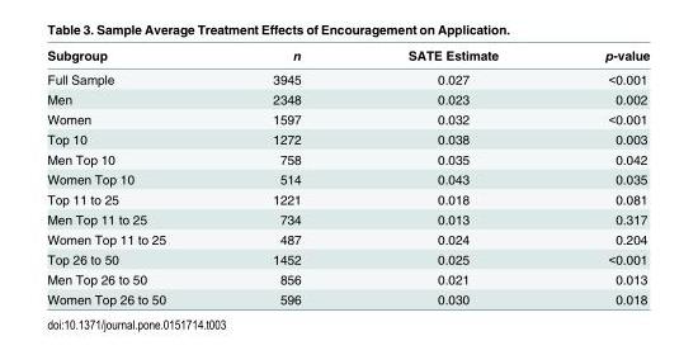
<table><thead><tr><td>Subgroup</td><td>n</td><td>SATE Estimate</td><td>p-value</td></tr></thead><tbody><tr><td>Full Sample</td><td>3945</td><td>0.027</td><td>&lt;0.001</td></tr><tr><td>Men</td><td>2348</td><td>0.023</td><td>0.002</td></tr><tr><td>Women</td><td>1597</td><td>0.032</td><td>&lt;0.001</td></tr><tr><td>Top 10</td><td>1272</td><td>0.038</td><td>0.003</td></tr><tr><td>Men Top 10</td><td>758</td><td>0.035</td><td>0.042</td></tr><tr><td>Women Top 10</td><td>514</td><td>0.043</td><td>0.035</td></tr><tr><td>Top 11 to 25</td><td>1221</td><td>0.018</td><td>0.081</td></tr><tr><td>Men Top 11 to 25</td><td>734</td><td>0.013</td><td>0.317</td></tr><tr><td>Women Top 11 to 25</td><td>487</td><td>0.024</td><td>0.204</td></tr><tr><td>Top 26 to 50</td><td>1452</td><td>0.025</td><td>&lt;0.001</td></tr><tr><td>Men Top 26 to 50</td><td>856</td><td>0.021</td><td>0.013</td></tr><tr><td>Women Top 26 to 50</td><td>596</td><td>0.030</td><td>0.018</td></tr></tbody></table>